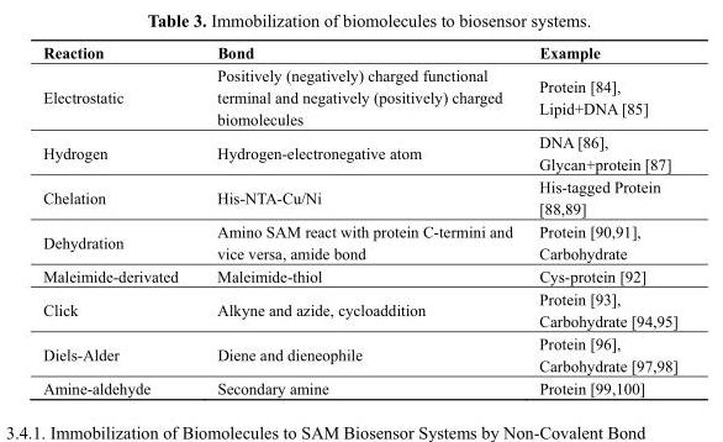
<table><thead><tr><td>Reaction</td><td>Bond</td><td>Example</td></tr></thead><tbody><tr><td>Electrostatic</td><td>Positively (negatively) charged functional terminal and negatively (positively) charged biomolecules</td><td>Protein [84], Lipid+DNA [85]</td></tr><tr><td>Hydrogen</td><td>Hydrogen-electronegative atom</td><td>DNA [86], Glycan+protein [87]</td></tr><tr><td>Chelation</td><td>His-NTA-Cu/Ni</td><td>His-tagged Protein [88,89]</td></tr><tr><td>Dehydration</td><td>Amino SAM react with protein C-termini and vice versa, amide bond</td><td>Protein [90,91], Carbohydrate</td></tr><tr><td>Maleimide-derivated</td><td>Maleimide-thiol</td><td>Cys-protein [92]</td></tr><tr><td>Click</td><td>Alkyne and azide, cycloaddition</td><td>Protein [93], Carbohydrate [94,95]</td></tr><tr><td>Diels-Alder</td><td>Diene and dieneophile</td><td>Protein [96], Carbohydrate [97,98]</td></tr><tr><td>Amine-aldehyde</td><td>Secondary amine</td><td>Protein [99,100]</td></tr></tbody></table>